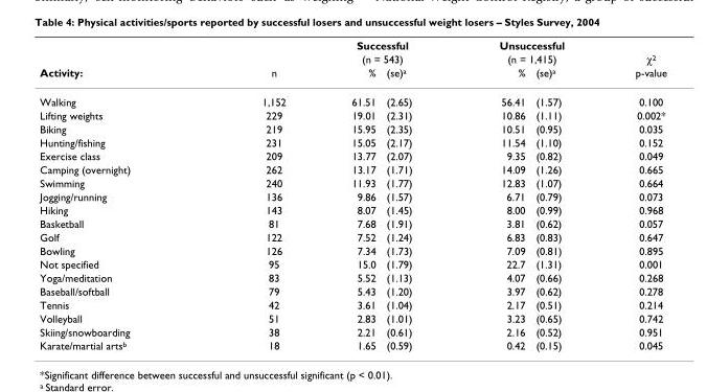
<table><thead><tr><td rowspan="3">Activity:</td><td rowspan="3">n</td><td rowspan="2" colspan="2">Successful (n = 543)</td><td rowspan="2" colspan="2">Unsuccessful (n = 1,415)</td><td rowspan="3">χ<sup>2</sup> p-value</td></tr><tr></tr><tr><td>%</td><td>(se)<sup>a</sup></td><td>%</td><td>(se)<sup>a</sup></td></tr></thead><tbody><tr><td>Walking</td><td>1,152</td><td>61.51</td><td>(2.65)</td><td>56.41</td><td>(1.57)</td><td>0.100</td></tr><tr><td>Lifting weights</td><td>229</td><td>19.01</td><td>(2.31)</td><td>10.86</td><td>(1.11)</td><td>0.002*</td></tr><tr><td>Biking</td><td>219</td><td>15.95</td><td>(2.35)</td><td>10.51</td><td>(0.95)</td><td>0.035</td></tr><tr><td>Hunting/fishing</td><td>231</td><td>15.05</td><td>(2.17)</td><td>11.54</td><td>(1.10)</td><td>0.152</td></tr><tr><td>Exercise class</td><td>209</td><td>13.77</td><td>(2.07)</td><td>9.35</td><td>(0.82)</td><td>0.049</td></tr><tr><td>Camping (overnight)</td><td>262</td><td>13.17</td><td>(1.71)</td><td>14.09</td><td>(1.26)</td><td>0.665</td></tr><tr><td>Swimming</td><td>240</td><td>11.93</td><td>(1.77)</td><td>12.83</td><td>(1.07)</td><td>0.664</td></tr><tr><td>Jogging/running</td><td>136</td><td>9.86</td><td>(1.57)</td><td>6.71</td><td>(0.79)</td><td>0.073</td></tr><tr><td>Hiking</td><td>143</td><td>8.07</td><td>(1.45)</td><td>8.00</td><td>(0.99)</td><td>0.968</td></tr><tr><td>Basketball</td><td>81</td><td>7.68</td><td>(1.91)</td><td>3.81</td><td>(0.62)</td><td>0.057</td></tr><tr><td>Golf</td><td>122</td><td>7.52</td><td>(1.24)</td><td>6.83</td><td>(0.83)</td><td>0.647</td></tr><tr><td>Bowling</td><td>126</td><td>7.34</td><td>(1.73)</td><td>7.09</td><td>(0.81)</td><td>0.895</td></tr><tr><td>Not specified</td><td>95</td><td>15.0</td><td>(1.79)</td><td>22.7</td><td>(1.31)</td><td>0.001</td></tr><tr><td>Yoga/meditation</td><td>83</td><td>5.52</td><td>(1.13)</td><td>4.07</td><td>(0.66)</td><td>0.268</td></tr><tr><td>Baseball/softball</td><td>79</td><td>5.43</td><td>(1.20)</td><td>3.97</td><td>(0.62)</td><td>0.278</td></tr><tr><td>Tennis</td><td>42</td><td>3.61</td><td>(1.04)</td><td>2.17</td><td>(0.51)</td><td>0.214</td></tr><tr><td>Volleyball</td><td>51</td><td>2.83</td><td>(1.01)</td><td>3.23</td><td>(0.65)</td><td>0.742</td></tr><tr><td>Skiing/snowboarding</td><td>38</td><td>2.21</td><td>(0.61)</td><td>2.16</td><td>(0.52)</td><td>0.951</td></tr><tr><td>Karate/martial arts<sup>b</sup></td><td>18</td><td>1.65</td><td>(0.59)</td><td>0.42</td><td>(0.15)</td><td>0.045</td></tr></tbody></table>